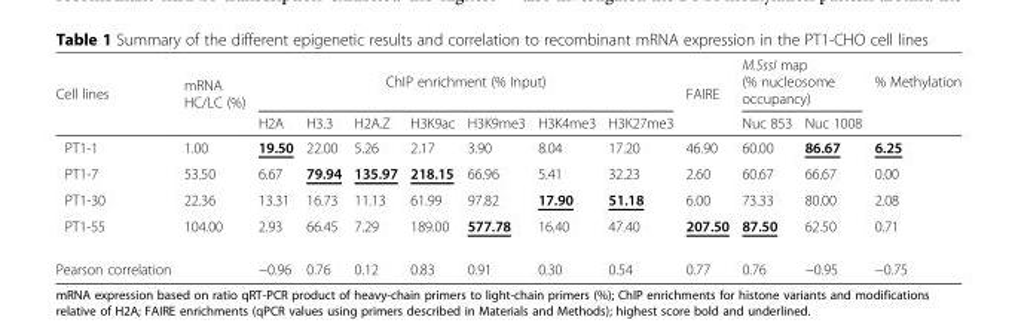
<table><thead><tr><td rowspan="2">Cell lines</td><td rowspan="2">mRNA HC/LC (%)</td><td colspan="7">ChIP enrichment (% Input)</td><td rowspan="2">FAIRE</td><td colspan="2">M.SssI map (% nucleosome occupancy)</td><td rowspan="2">% Methylation</td></tr><tr><td>H2A</td><td>H3.3</td><td>H2A.Z</td><td>H3K9ac</td><td>H3K9me3</td><td>H3K4me3</td><td>H3K27me3</td><td>Nuc 853</td><td>Nuc 1008</td></tr></thead><tbody><tr><td>PT1-1</td><td>1.00</td><td>19.50</td><td>22.00</td><td>5.26</td><td>2.17</td><td>3.90</td><td>8.04</td><td>17.20</td><td>46.90</td><td>60.00</td><td>86.67</td><td>6.25</td></tr><tr><td>PT1-7</td><td>53.50</td><td>6.67</td><td>79.94</td><td>135.97</td><td>218.15</td><td>66.96</td><td>5.41</td><td>32.23</td><td>2.60</td><td>60.67</td><td>66.67</td><td>0.00</td></tr><tr><td>PT1-30</td><td>22.36</td><td>13.31</td><td>16.73</td><td>11.13</td><td>61.99</td><td>97.82</td><td>17.90</td><td>51.18</td><td>6.00</td><td>73.33</td><td>80.00</td><td>2.08</td></tr><tr><td>PT1-55</td><td>104.00</td><td>2.93</td><td>66.45</td><td>7.29</td><td>189.00</td><td>577.78</td><td>16.40</td><td>47.40</td><td>207.50</td><td>87.50</td><td>62.50</td><td>0.71</td></tr><tr><td>Pearson correlation</td><td></td><td>−0.96</td><td>0.76</td><td>0.12</td><td>0.83</td><td>0.91</td><td>0.30</td><td>0.54</td><td>0.77</td><td>0.76</td><td>−0.95</td><td>−0.75</td></tr></tbody></table>